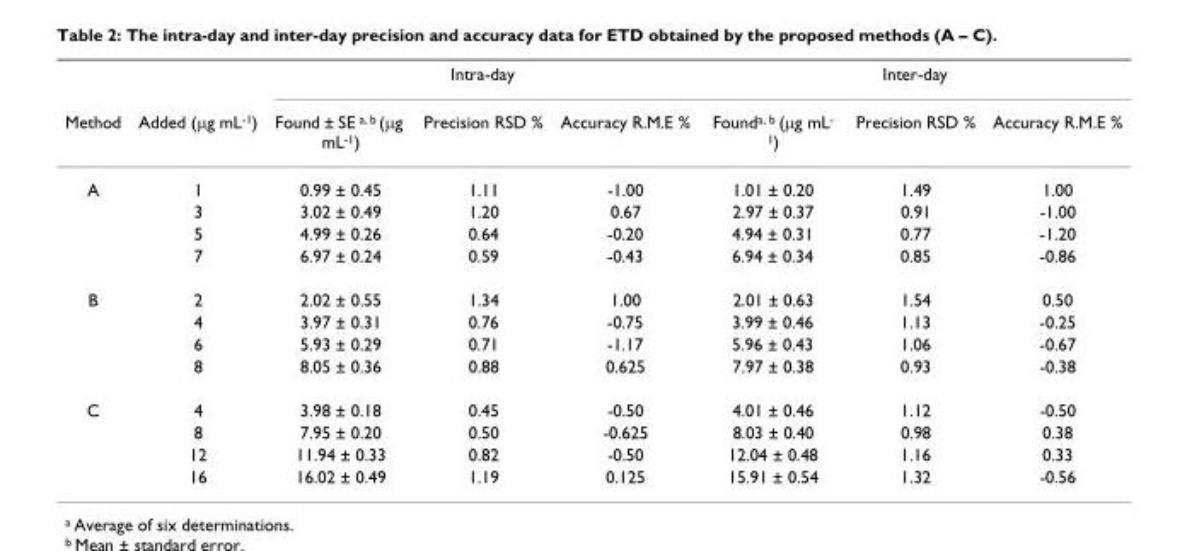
<table><thead><tr><td rowspan="2">Method</td><td rowspan="2">Added (µg mL<sup>-1</sup>)</td><td colspan="3">Intra-day</td><td colspan="3">Inter-day</td></tr><tr><td>Found ± SE <sup>a, b</sup> (µg mL<sup>-1</sup>)</td><td>Precision RSD %</td><td>Accuracy R.M.E %</td><td>Found<sup>a, b</sup> (µg mL<sup>- 1</sup>)</td><td>Precision RSD %</td><td>Accuracy R.M.E %</td></tr></thead><tbody><tr><td rowspan="4">A</td><td>1</td><td>0.99 ± 0.45</td><td>1.11</td><td>-1.00</td><td>1.01 ± 0.20</td><td>1.49</td><td>1.00</td></tr><tr><td>3</td><td>3.02 ± 0.49</td><td>1.20</td><td>0.67</td><td>2.97 ± 0.37</td><td>0.91</td><td>-1.00</td></tr><tr><td>5</td><td>4.99 ± 0.26</td><td>0.64</td><td>-0.20</td><td>4.94 ± 0.31</td><td>0.77</td><td>-1.20</td></tr><tr><td>7</td><td>6.97 ± 0.24</td><td>0.59</td><td>-0.43</td><td>6.94 ± 0.34</td><td>0.85</td><td>-0.86</td></tr><tr><td rowspan="4">B</td><td>2</td><td>2.02 ± 0.55</td><td>1.34</td><td>1.00</td><td>2.01 ± 0.63</td><td>1.54</td><td>0.50</td></tr><tr><td>4</td><td>3.97 ± 0.31</td><td>0.76</td><td>-0.75</td><td>3.99 ± 0.46</td><td>1.13</td><td>-0.25</td></tr><tr><td>6</td><td>5.93 ± 0.29</td><td>0.71</td><td>-1.17</td><td>5.96 ± 0.43</td><td>1.06</td><td>-0.67</td></tr><tr><td>8</td><td>8.05 ± 0.36</td><td>0.88</td><td>0.625</td><td>7.97 ± 0.38</td><td>0.93</td><td>-0.38</td></tr><tr><td rowspan="4">C</td><td>4</td><td>3.98 ± 0.18</td><td>0.45</td><td>-0.50</td><td>4.01 ± 0.46</td><td>1.12</td><td>-0.50</td></tr><tr><td>8</td><td>7.95 ± 0.20</td><td>0.50</td><td>-0.625</td><td>8.03 ± 0.40</td><td>0.98</td><td>0.38</td></tr><tr><td>12</td><td>11.94 ± 0.33</td><td>0.82</td><td>-0.50</td><td>12.04 ± 0.48</td><td>1.16</td><td>0.33</td></tr><tr><td>16</td><td>16.02 ± 0.49</td><td>1.19</td><td>0.125</td><td>15.91 ± 0.54</td><td>1.32</td><td>-0.56</td></tr></tbody></table>